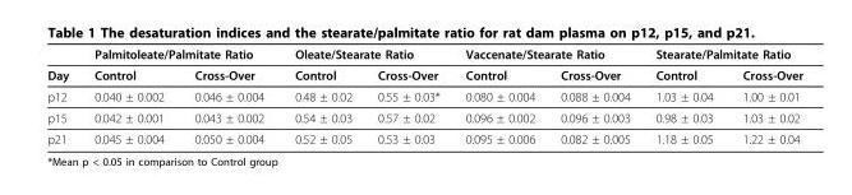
<table><thead><tr><td rowspan="2">Day</td><td colspan="2">Palmitoleate/Palmitate Ratio</td><td colspan="2">Oleate/Stearate Ratio</td><td colspan="2">Vaccenate/Stearate Ratio</td><td colspan="2">Stearate/Palmitate Ratio</td></tr><tr><td>Control</td><td>Cross-Over</td><td>Control</td><td>Cross-Over</td><td>Control</td><td>Cross-Over</td><td>Control</td><td>Cross-Over</td></tr></thead><tbody><tr><td>p12</td><td>0.040 ± 0.002</td><td>0.046 ± 0.004</td><td>0.48 ± 0.02</td><td>0.55 ± 0.03*</td><td>0.080 ± 0.004</td><td>0.088 ± 0.004</td><td>1.03 ± 0.04</td><td>1.00 ± 0.01</td></tr><tr><td>p15</td><td>0.042 ± 0.001</td><td>0.043 ± 0.002</td><td>0.54 ± 0.03</td><td>0.57 ± 0.02</td><td>0.096 ± 0.002</td><td>0.096 ± 0.003</td><td>0.98 ± 0.03</td><td>1.03 ± 0.02</td></tr><tr><td>p21</td><td>0.045 ± 0.004</td><td>0.050 ± 0.004</td><td>0.52 ± 0.05</td><td>0.53 ± 0.03</td><td>0.095 ± 0.006</td><td>0.082 ± 0.005</td><td>1.18 ± 0.05</td><td>1.22 ± 0.04</td></tr></tbody></table>